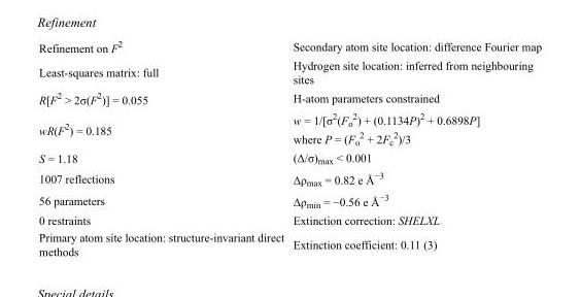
<table><tbody><tr><td>Refinement on F<sup>2</sup></td><td>Secondary atom site location: difference Fourier map</td></tr><tr><td>Least-squares matrix: full</td><td>Hydrogen site location: inferred from neighbouring sites</td></tr><tr><td>R[F<sup>2</sup> &gt; 2σ(F<sup>2</sup>)] = 0.055</td><td>H-atom parameters constrained</td></tr><tr><td>wR(F<sup>2</sup>) = 0.185</td><td>w = 1/[σ<sup>2</sup>(F<sub>o</sub> <sup>2</sup>) + (0.1134P)<sup>2</sup> + 0.6898P] where P = (F<sub>o</sub> <sup>2</sup> + 2F<sub>c</sub> <sup>2</sup>)/3</td></tr><tr><td>S = 1.18</td><td>(Δ/σ)<sub>max</sub> &lt; 0.001</td></tr><tr><td>1007 reflections</td><td>Δρ<sub>max</sub> = 0.82 e Å<sup>−3</sup></td></tr><tr><td>56 parameters</td><td>Δρ<sub>min</sub> = −0.56 e Å<sup>−3</sup></td></tr><tr><td>0 restraints</td><td>Extinction correction: SHELXL</td></tr><tr><td>Primary atom site location: structure-invariant direct methods</td><td>Extinction coefficient: 0.11 (3)</td></tr></tbody></table>